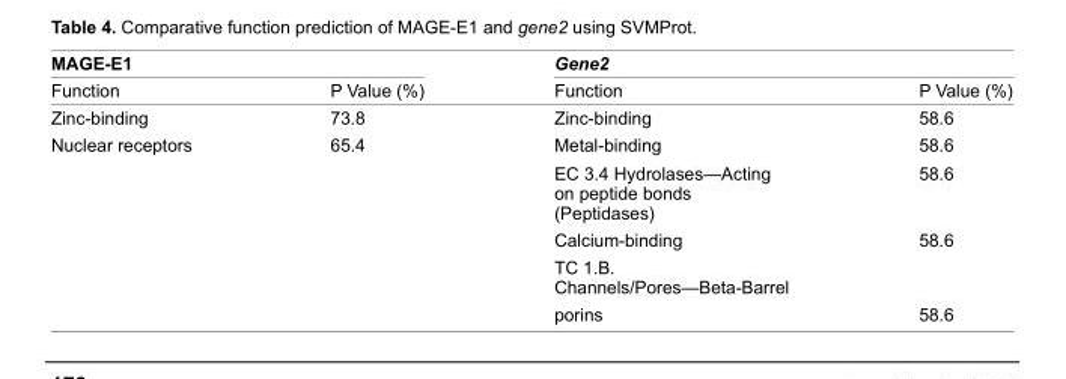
<table><thead><tr><td colspan="2">MAGe-e1</td><td colspan="2">Gene2</td></tr><tr><td>Function</td><td>p Value (%)</td><td>Function</td><td>p Value (%)</td></tr></thead><tbody><tr><td>Zinc-binding</td><td>73.8</td><td>Zinc-binding</td><td>58.6</td></tr><tr><td rowspan="4">Nuclear receptors</td><td>65.4</td><td>Metal-binding</td><td>58.6</td></tr><tr><td></td><td>eC 3.4 hydrolases—Acting on peptide bonds (peptidases)</td><td>58.6</td></tr><tr><td></td><td>Calcium-binding</td><td>58.6</td></tr><tr><td></td><td>TC 1.B. Channels/pores—Beta-Barrel porins</td><td>58.6</td></tr></tbody></table>